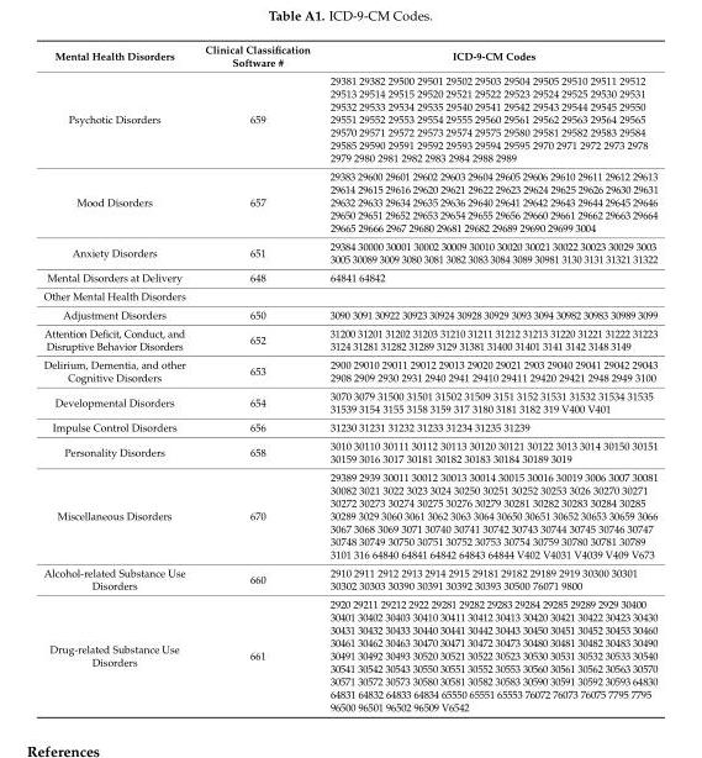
<table><thead><tr><td>Mental Health Disorders</td><td>Clinical Classification Software #</td><td>ICD-9-CM Codes</td></tr></thead><tbody><tr><td>Psychotic Disorders</td><td>659</td><td>29381 29382 29500 29501 29502 29503 29504 29505 29510 29511 29512 29513 29514 29515 29520 29521 29522 29523 29524 29525 29530 29531 29532 29533 29534 29535 29540 29541 29542 29543 29544 29545 29550 29551 29552 29553 29554 29555 29560 29561 29562 29563 29564 29565 29570 29571 29572 29573 29574 29575 29580 29581 29582 29583 29584 29585 29590 29591 29592 29593 29594 29595 2970 2971 2972 2973 2978 2979 2980 2981 2982 2983 2984 2988 2989</td></tr><tr><td>Mood Disorders</td><td>657</td><td>29383 29600 29601 29602 29603 29604 29605 29606 29610 29611 29612 29613 29614 29615 29616 29620 29621 29622 29623 29624 29625 29626 29630 29631 29632 29633 29634 29635 29636 29640 29641 29642 29643 29644 29645 29646 29650 29651 29652 29653 29654 29655 29656 29660 29661 29662 29663 29664 29665 29666 2967 29680 29681 29682 29689 29690 29699 3004</td></tr><tr><td>Anxiety Disorders</td><td>651</td><td>29384 30000 30001 30002 30009 30010 30020 30021 30022 30023 30029 3003 3005 30089 3009 3080 3081 3082 3083 3084 3089 30981 3130 3131 31321 31322</td></tr><tr><td>Mental Disorders at Delivery</td><td>648</td><td>64841 64842</td></tr><tr><td colspan="3">Other Mental Health Disorders</td></tr><tr><td>Adjustment Disorders</td><td>650</td><td>3090 3091 30922 30923 30924 30928 30929 3093 3094 30982 30983 30989 3099</td></tr><tr><td>Attention Deficit, Conduct, and Disruptive Behavior Disorders</td><td>652</td><td>31200 31201 31202 31203 31210 31211 31212 31213 31220 31221 31222 31223 3124 31281 31282 31289 3129 31381 31400 31401 3141 3142 3148 3149</td></tr><tr><td>Delirium, Dementia, and other Cognitive Disorders</td><td>653</td><td>2900 29010 29011 29012 29013 29020 29021 2903 29040 29041 29042 29043 2908 2909 2930 2931 2940 2941 29410 29411 29420 29421 2948 2949 3100</td></tr><tr><td>Developmental Disorders</td><td>654</td><td>3070 3079 31500 31501 31502 31509 3151 3152 31531 31532 31534 31535 31539 3154 3155 3158 3159 317 3180 3181 3182 319 V400 V401</td></tr><tr><td>Impulse Control Disorders</td><td>656</td><td>31230 31231 31232 31233 31234 31235 31239</td></tr><tr><td>Personality Disorders</td><td>658</td><td>3010 30110 30111 30112 30113 30120 30121 30122 3013 3014 30150 30151 30159 3016 3017 30181 30182 30183 30184 30189 3019</td></tr><tr><td>Miscellaneous Disorders</td><td>670</td><td>29389 2939 30011 30012 30013 30014 30015 30016 30019 3006 3007 30081 30082 3021 3022 3023 3024 30250 30251 30252 30253 3026 30270 30271 30272 30273 30274 30275 30276 30279 30281 30282 30283 30284 30285 30289 3029 3060 3061 3062 3063 3064 30650 30651 30652 30653 30659 3066 3067 3068 3069 3071 30740 30741 30742 30743 30744 30745 30746 30747 30748 30749 30750 30751 30752 30753 30754 30759 30780 30781 30789 3101 316 64840 64841 64842 64843 64844 V402 V4031 V4039 V409 V673</td></tr><tr><td>Alcohol-related Substance Use Disorders</td><td>660</td><td>2910 2911 2912 2913 2914 2915 29181 29182 29189 2919 30300 30301 30302 30303 30390 30391 30392 30393 30500 76071 9800</td></tr><tr><td>Drug-related Substance Use Disorders</td><td>661</td><td>2920 29211 29212 2922 29281 29282 29283 29284 29285 29289 2929 30400 30401 30402 30403 30410 30411 30412 30413 30420 30421 30422 30423 30430 30431 30432 30433 30440 30441 30442 30443 30450 30451 30452 30453 30460 30461 30462 30463 30470 30471 30472 30473 30480 30481 30482 30483 30490 30491 30492 30493 30520 30521 30522 30523 30530 30531 30532 30533 30540 30541 30542 30543 30550 30551 30552 30553 30560 30561 30562 30563 30570 30571 30572 30573 30580 30581 30582 30583 30590 30591 30592 30593 64830 64831 64832 64833 64834 65550 65551 65553 76072 76073 76075 7795 7795 96500 96501 96502 96509 V6542</td></tr></tbody></table>